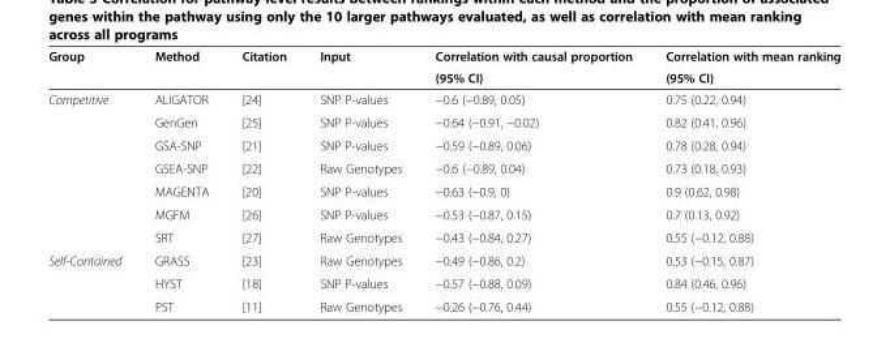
<table><thead><tr><td rowspan="2">Group</td><td rowspan="2">Method</td><td rowspan="2">Citation</td><td rowspan="2">Input</td><td rowspan="2">Correlation with causal proportion (95% CI)</td><td rowspan="2">Correlation with mean ranking (95% CI)</td></tr><tr></tr></thead><tbody><tr><td rowspan="7">Competitive</td><td>ALIGATOR</td><td>[24]</td><td>SNP P-values</td><td>−0.6 (−0.89, 0.05)</td><td>0.75 (0.22, 0.94)</td></tr><tr><td>GenGen</td><td>[25]</td><td>SNP P-values</td><td>−0.64 (−0.91, −0.02)</td><td>0.82 (0.41, 0.96)</td></tr><tr><td>GSA-SNP</td><td>[21]</td><td>SNP P-values</td><td>−0.59 (−0.89, 0.06)</td><td>0.78 (0.28, 0.94)</td></tr><tr><td>GSEA-SNP</td><td>[22]</td><td>Raw Genotypes</td><td>−0.6 (−0.89, 0.04)</td><td>0.73 (0.18, 0.93)</td></tr><tr><td>MAGENTA</td><td>[20]</td><td>SNP P-values</td><td>−0.63 (−0.9, 0)</td><td>0.9 (0.62, 0.98)</td></tr><tr><td>MGFM</td><td>[26]</td><td>SNP P-values</td><td>−0.53 (−0.87, 0.15)</td><td>0.7 (0.13, 0.92)</td></tr><tr><td>SRT</td><td>[27]</td><td>Raw Genotypes</td><td>−0.43 (−0.84, 0.27)</td><td>0.55 (−0.12, 0.88)</td></tr><tr><td rowspan="3">Self-Contained</td><td>GRASS</td><td>[23]</td><td>Raw Genotypes</td><td>−0.49 (−0.86, 0.2)</td><td>0.53 (−0.15, 0.87)</td></tr><tr><td>HYST</td><td>[18]</td><td>SNP P-values</td><td>−0.57 (−0.88, 0.09)</td><td>0.84 (0.46, 0.96)</td></tr><tr><td>PST</td><td>[11]</td><td>Raw Genotypes</td><td>−0.26 (−0.76, 0.44)</td><td>0.55 (−0.12, 0.88)</td></tr></tbody></table>